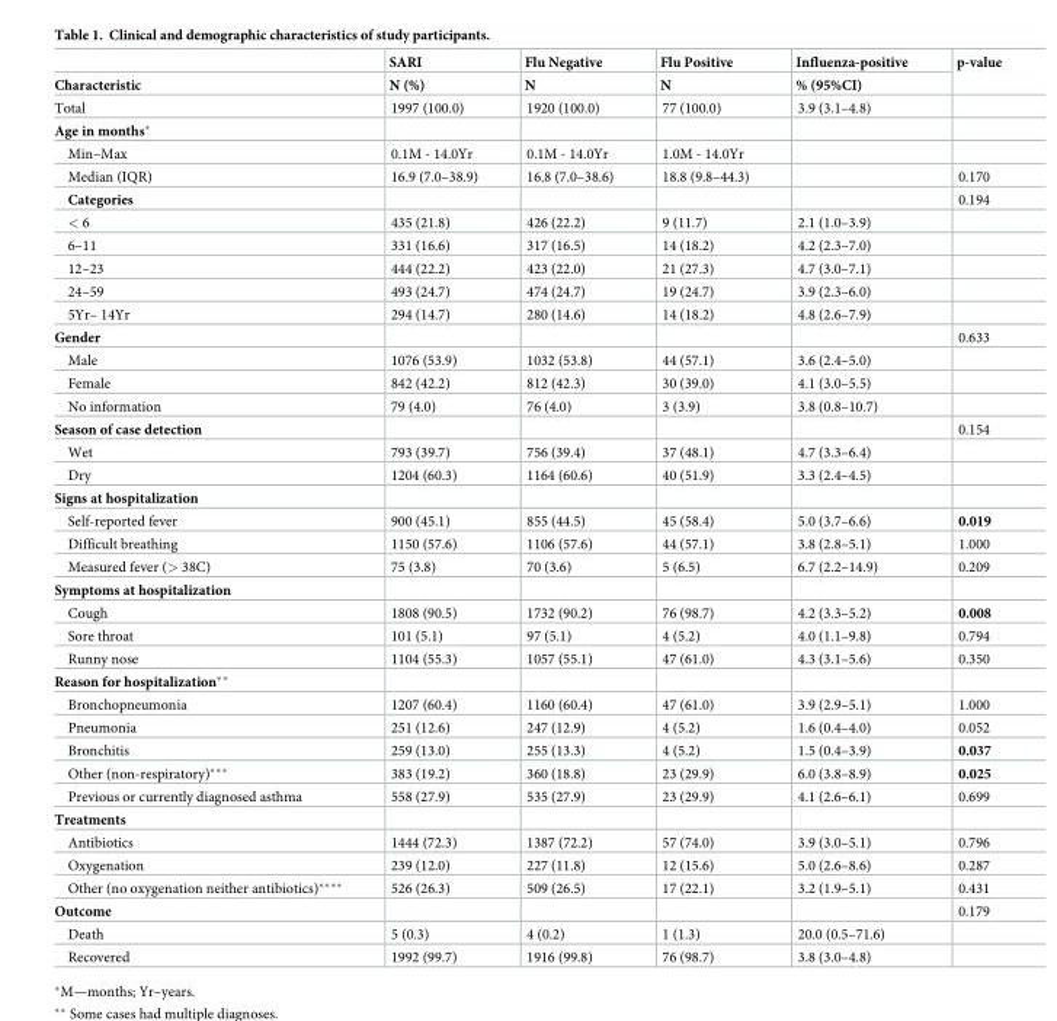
<table><thead><tr><td rowspan="2">Characteristic</td><td rowspan="2">SARI N (%)</td><td rowspan="2">Flu Negative N</td><td rowspan="2">Flu Positive N</td><td rowspan="2">Influenza-positive % (95%CI)</td><td rowspan="2">p-value</td></tr><tr></tr></thead><tbody><tr><td>Total</td><td>1997 (100.0)</td><td>1920 (100.0)</td><td>77 (100.0)</td><td>3.9 (3.1–4.8)</td><td></td></tr><tr><td colspan="6">Age in months*</td></tr><tr><td>Min–Max</td><td>0.1M - 14.0Yr</td><td>0.1M - 14.0Yr</td><td>1.0M - 14.0Yr</td><td></td><td></td></tr><tr><td>Median (IQR)</td><td>16.9 (7.0–38.9)</td><td>16.8 (7.0–38.6)</td><td>18.8 (9.8–44.3)</td><td></td><td>0.170</td></tr><tr><td>Categories</td><td></td><td></td><td></td><td></td><td>0.194</td></tr><tr><td>&lt; 6</td><td>435 (21.8)</td><td>426 (22.2)</td><td>9 (11.7)</td><td>2.1 (1.0–3.9)</td><td></td></tr><tr><td>6–11</td><td>331 (16.6)</td><td>317 (16.5)</td><td>14 (18.2)</td><td>4.2 (2.3–7.0)</td><td></td></tr><tr><td>12–23</td><td>444 (22.2)</td><td>423 (22.0)</td><td>21 (27.3)</td><td>4.7 (3.0–7.1)</td><td></td></tr><tr><td>24–59</td><td>493 (24.7)</td><td>474 (24.7)</td><td>19 (24.7)</td><td>3.9 (2.3–6.0)</td><td></td></tr><tr><td>5Yr– 14Yr</td><td>294 (14.7)</td><td>280 (14.6)</td><td>14 (18.2)</td><td>4.8 (2.6–7.9)</td><td></td></tr><tr><td>Gender</td><td></td><td></td><td></td><td></td><td>0.633</td></tr><tr><td>Male</td><td>1076 (53.9)</td><td>1032 (53.8)</td><td>44 (57.1)</td><td>3.6 (2.4–5.0)</td><td></td></tr><tr><td>Female</td><td>842 (42.2)</td><td>812 (42.3)</td><td>30 (39.0)</td><td>4.1 (3.0–5.5)</td><td></td></tr><tr><td>No information</td><td>79 (4.0)</td><td>76 (4.0)</td><td>3 (3.9)</td><td>3.8 (0.8–10.7)</td><td></td></tr><tr><td>Season of case detection</td><td></td><td></td><td></td><td></td><td>0.154</td></tr><tr><td>Wet</td><td>793 (39.7)</td><td>756 (39.4)</td><td>37 (48.1)</td><td>4.7 (3.3–6.4)</td><td></td></tr><tr><td>Dry</td><td>1204 (60.3)</td><td>1164 (60.6)</td><td>40 (51.9)</td><td>3.3 (2.4–4.5)</td><td></td></tr><tr><td colspan="6">Signs at hospitalization</td></tr><tr><td>Self-reported fever</td><td>900 (45.1)</td><td>855 (44.5)</td><td>45 (58.4)</td><td>5.0 (3.7–6.6)</td><td>0.019</td></tr><tr><td>Difficult breathing</td><td>1150 (57.6)</td><td>1106 (57.6)</td><td>44 (57.1)</td><td>3.8 (2.8–5.1)</td><td>1.000</td></tr><tr><td>Measured fever (&gt; 38C)</td><td>75 (3.8)</td><td>70 (3.6)</td><td>5 (6.5)</td><td>6.7 (2.2–14.9)</td><td>0.209</td></tr><tr><td colspan="6">Symptoms at hospitalization</td></tr><tr><td>Cough</td><td>1808 (90.5)</td><td>1732 (90.2)</td><td>76 (98.7)</td><td>4.2 (3.3–5.2)</td><td>0.008</td></tr><tr><td>Sore throat</td><td>101 (5.1)</td><td>97 (5.1)</td><td>4 (5.2)</td><td>4.0 (1.1–9.8)</td><td>0.794</td></tr><tr><td>Runny nose</td><td>1104 (55.3)</td><td>1057 (55.1)</td><td>47 (61.0)</td><td>4.3 (3.1–5.6)</td><td>0.350</td></tr><tr><td colspan="6">Reason for hospitalization**</td></tr><tr><td>Bronchopneumonia</td><td>1207 (60.4)</td><td>1160 (60.4)</td><td>47 (61.0)</td><td>3.9 (2.9–5.1)</td><td>1.000</td></tr><tr><td>Pneumonia</td><td>251 (12.6)</td><td>247 (12.9)</td><td>4 (5.2)</td><td>1.6 (0.4–4.0)</td><td>0.052</td></tr><tr><td>Bronchitis</td><td>259 (13.0)</td><td>255 (13.3)</td><td>4 (5.2)</td><td>1.5 (0.4–3.9)</td><td>0.037</td></tr><tr><td>Other (non-respiratory)***</td><td>383 (19.2)</td><td>360 (18.8)</td><td>23 (29.9)</td><td>6.0 (3.8–8.9)</td><td>0.025</td></tr><tr><td>Previous or currently diagnosed asthma</td><td>558 (27.9)</td><td>535 (27.9)</td><td>23 (29.9)</td><td>4.1 (2.6–6.1)</td><td>0.699</td></tr><tr><td colspan="6">Treatments</td></tr><tr><td>Antibiotics</td><td>1444 (72.3)</td><td>1387 (72.2)</td><td>57 (74.0)</td><td>3.9 (3.0–5.1)</td><td>0.796</td></tr><tr><td>Oxygenation</td><td>239 (12.0)</td><td>227 (11.8)</td><td>12 (15.6)</td><td>5.0 (2.6–8.6)</td><td>0.287</td></tr><tr><td>Other (no oxygenation neither antibiotics)****</td><td>526 (26.3)</td><td>509 (26.5)</td><td>17 (22.1)</td><td>3.2 (1.9–5.1)</td><td>0.431</td></tr><tr><td>Outcome</td><td></td><td></td><td></td><td></td><td>0.179</td></tr><tr><td>Death</td><td>5 (0.3)</td><td>4 (0.2)</td><td>1 (1.3)</td><td>20.0 (0.5–71.6)</td><td></td></tr><tr><td>Recovered</td><td>1992 (99.7)</td><td>1916 (99.8)</td><td>76 (98.7)</td><td>3.8 (3.0–4.8)</td><td></td></tr></tbody></table>